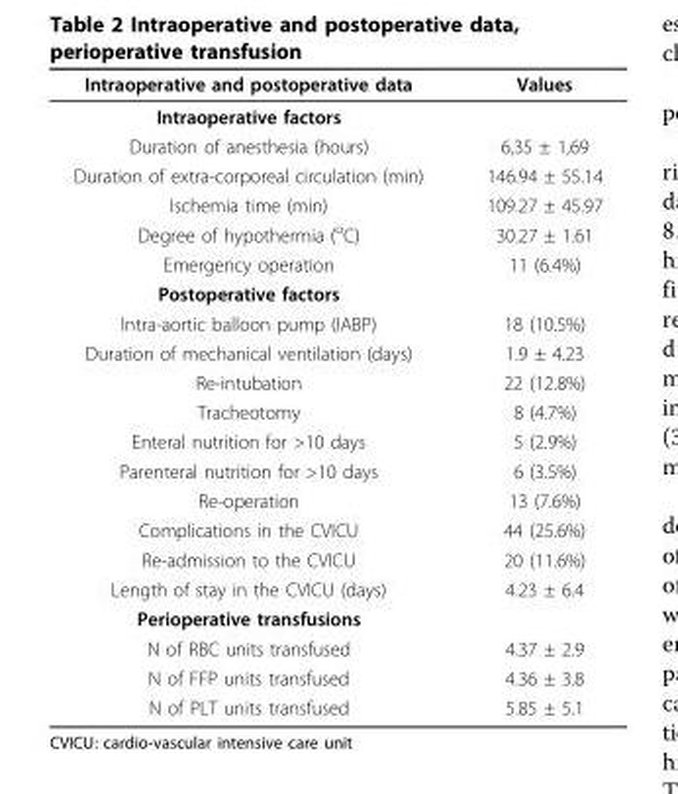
<table><thead><tr><td>Intraoperative and postoperative data</td><td>Values</td></tr></thead><tbody><tr><td colspan="2">Intraoperative factors</td></tr><tr><td>Duration of anesthesia (hours)</td><td>6,35 ± 1,69</td></tr><tr><td>Duration of extra-corporeal circulation (min)</td><td>146.94 ± 55.14</td></tr><tr><td>Ischemia time (min)</td><td>109.27 ± 45.97</td></tr><tr><td>Degree of hypothermia (<sup>ο</sup>C)</td><td>30.27 ± 1.61</td></tr><tr><td>Emergency operation</td><td>11 (6.4%)</td></tr><tr><td colspan="2">Postoperative factors</td></tr><tr><td>Intra-aortic balloon pump (IABP)</td><td>18 (10.5%)</td></tr><tr><td>Duration of mechanical ventilation (days)</td><td>1.9 ± 4.23</td></tr><tr><td>Re-intubation</td><td>22 (12.8%)</td></tr><tr><td>Tracheotomy</td><td>8 (4.7%)</td></tr><tr><td>Enteral nutrition for &gt;10 days</td><td>5 (2.9%)</td></tr><tr><td>Parenteral nutrition for &gt;10 days</td><td>6 (3.5%)</td></tr><tr><td>Re-operation</td><td>13 (7.6%)</td></tr><tr><td>Complications in the CVICU</td><td>44 (25.6%)</td></tr><tr><td>Re-admission to the CVICU</td><td>20 (11.6%)</td></tr><tr><td>Length of stay in the CVICU (days)</td><td>4.23 ± 6.4</td></tr><tr><td colspan="2">Perioperative transfusions</td></tr><tr><td>N of RBC units transfused</td><td>4.37 ± 2.9</td></tr><tr><td>N of FFP units transfused</td><td>4.36 ± 3.8</td></tr><tr><td>N of PLT units transfused</td><td>5.85 ± 5.1</td></tr></tbody></table>